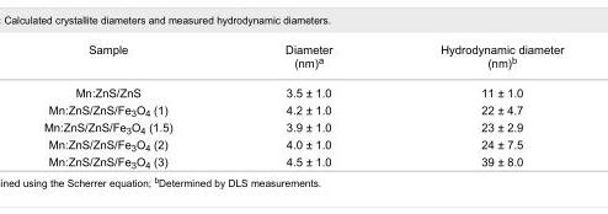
<table><tbody><tr><td>Sample</td><td>Diameter (nm)<sup>a</sup></td><td>Hydrodynamic diameter (nm)<sup>b</sup></td></tr><tr><td>Mn:ZnS/ZnS</td><td>3.5 ± 1.0</td><td>11 ± 1.0</td></tr><tr><td>Mn:ZnS/ZnS/Fe<sub>3</sub>O<sub>4</sub> (1)</td><td>4.2 ± 1.0</td><td>22 ± 4.7</td></tr><tr><td>Mn:ZnS/ZnS/Fe<sub>3</sub>O<sub>4</sub> (1.5)</td><td>3.9 ± 1.0</td><td>23 ± 2.9</td></tr><tr><td>Mn:ZnS/ZnS/Fe<sub>3</sub>O<sub>4</sub> (2)</td><td>4.0 ± 1.0</td><td>24 ± 7.5</td></tr><tr><td>Mn:ZnS/ZnS/Fe<sub>3</sub>O<sub>4</sub> (3)</td><td>4.5 ± 1.0</td><td>39 ± 8.0</td></tr></tbody></table>